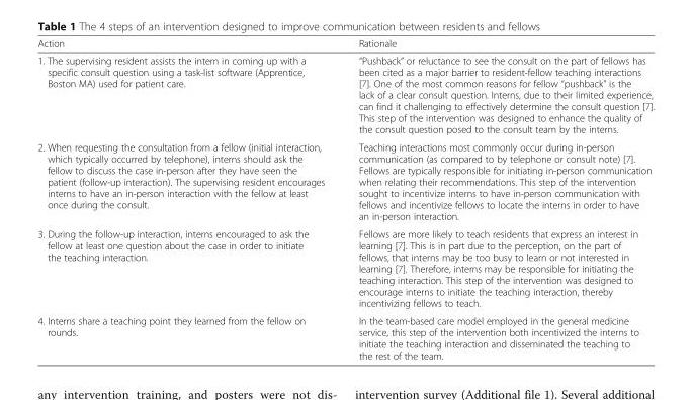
<table><thead><tr><td>Action</td><td>Rationale</td></tr></thead><tbody><tr><td>1. The supervising resident assists the intern in coming up with a specific consult question using a task-list software (Apprentice, Boston MA) used for patient care.</td><td>“Pushback” or reluctance to see the consult on the part of fellows has been cited as a major barrier to resident-fellow teaching interactions [7]. One of the most common reasons for fellow “pushback” is the lack of a clear consult question. Interns, due to their limited experience, can find it challenging to effectively determine the consult question [7]. This step of the intervention was designed to enhance the quality of the consult question posed to the consult team by the interns.</td></tr><tr><td>2. When requesting the consultation from a fellow (initial interaction, which typically occurred by telephone), interns should ask the fellow to discuss the case in-person after they have seen the patient (follow-up interaction). The supervising resident encourages interns to have an in-person interaction with the fellow at least once during the consult.</td><td>Teaching interactions most commonly occur during in-person communication (as compared to by telephone or consult note) [7]. Fellows are typically responsible for initiating in-person communication when relating their recommendations. This step of the intervention sought to incentivize interns to have in-person communication with fellows and incentivize fellows to locate the interns in order to have an in-person interaction.</td></tr><tr><td>3. During the follow-up interaction, interns encouraged to ask the fellow at least one question about the case in order to initiate the teaching interaction.</td><td>Fellows are more likely to teach residents that express an interest in learning [7]. This is in part due to the perception, on the part of fellows, that interns may be too busy to learn or not interested in learning [7]. Therefore, interns may be responsible for initiating the teaching interaction. This step of the intervention was designed to encourage interns to initiate the teaching interaction, thereby incentivizing fellows to teach.</td></tr><tr><td>4. Interns share a teaching point they learned from the fellow on rounds.</td><td>In the team-based care model employed in the general medicine service, this step of the intervention both incentivized the interns to initiate the teaching interaction and disseminated the teaching to the rest of the team.</td></tr></tbody></table>